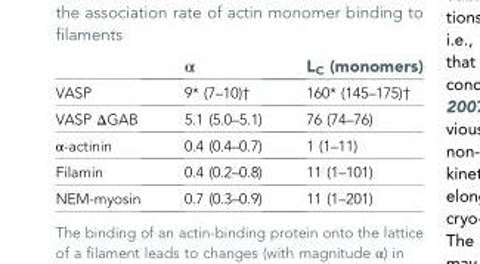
<table><thead><tr><td></td><td>α</td><td>L<sub>C</sub> (monomers)</td></tr></thead><tbody><tr><td>VASP</td><td>9* (7–10)<sup>†</sup></td><td>160* (145–175)<sup>†</sup></td></tr><tr><td>VASP ΔGAB</td><td>5.1 (5.0–5.1)</td><td>76 (74–76)</td></tr><tr><td>α-actinin</td><td>0.4 (0.4–0.7)</td><td>1 (1–11)</td></tr><tr><td>Filamin</td><td>0.4 (0.2–0.8)</td><td>11 (1–101)</td></tr><tr><td>NEM-myosin</td><td>0.7 (0.3–0.9)</td><td>11 (1–201)</td></tr></tbody></table>